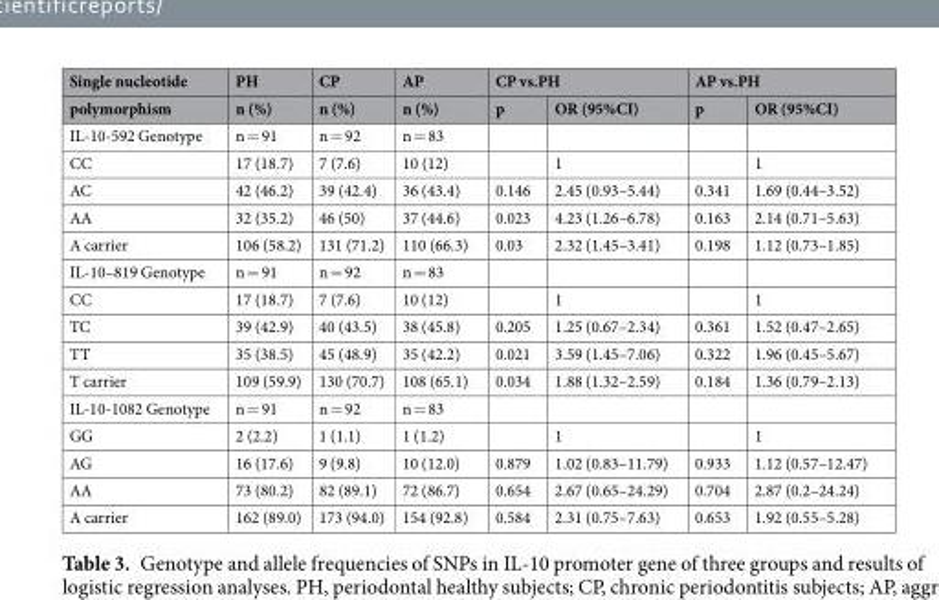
<table><thead><tr><td rowspan="2">Single nucleotide polymorphism</td><td rowspan="2">PH n (%)</td><td rowspan="2">CP n (%)</td><td rowspan="2">AP n (%)</td><td colspan="2">CP vs.PH</td><td colspan="2">AP vs.PH</td></tr><tr><td>p</td><td>OR (95%CI)</td><td>p</td><td>OR (95%CI)</td></tr></thead><tbody><tr><td>IL-10-592 Genotype</td><td>n = 91</td><td>n = 92</td><td>n = 83</td><td></td><td></td><td></td><td></td></tr><tr><td>CC</td><td>17 (18.7)</td><td>7 (7.6)</td><td>10 (12)</td><td></td><td>1</td><td></td><td>1</td></tr><tr><td>AC</td><td>42 (46.2)</td><td>39 (42.4)</td><td>36 (43.4)</td><td>0.146</td><td>2.45 (0.93–5.44)</td><td>0.341</td><td>1.69 (0.44–3.52)</td></tr><tr><td>AA</td><td>32 (35.2)</td><td>46 (50)</td><td>37 (44.6)</td><td>0.023</td><td>4.23 (1.26–6.78)</td><td>0.163</td><td>2.14 (0.71–5.63)</td></tr><tr><td>A carrier</td><td>106 (58.2)</td><td>131 (71.2)</td><td>110 (66.3)</td><td>0.03</td><td>2.32 (1.45–3.41)</td><td>0.198</td><td>1.12 (0.73–1.85)</td></tr><tr><td>IL-10–819 Genotype</td><td>n = 91</td><td>n = 92</td><td>n = 83</td><td></td><td></td><td></td><td></td></tr><tr><td>CC</td><td>17 (18.7)</td><td>7 (7.6)</td><td>10 (12)</td><td></td><td>1</td><td></td><td>1</td></tr><tr><td>TC</td><td>39 (42.9)</td><td>40 (43.5)</td><td>38 (45.8)</td><td>0.205</td><td>1.25 (0.67–2.34)</td><td>0.361</td><td>1.52 (0.47–2.65)</td></tr><tr><td>TT</td><td>35 (38.5)</td><td>45 (48.9)</td><td>35 (42.2)</td><td>0.021</td><td>3.59 (1.45–7.06)</td><td>0.322</td><td>1.96 (0.45–5.67)</td></tr><tr><td>T carrier</td><td>109 (59.9)</td><td>130 (70.7)</td><td>108 (65.1)</td><td>0.034</td><td>1.88 (1.32–2.59)</td><td>0.184</td><td>1.36 (0.79–2.13)</td></tr><tr><td>IL-10-1082 Genotype</td><td>n = 91</td><td>n = 92</td><td>n = 83</td><td></td><td></td><td></td><td></td></tr><tr><td>GG</td><td>2 (2.2)</td><td>1 (1.1)</td><td>1 (1.2)</td><td></td><td>1</td><td></td><td>1</td></tr><tr><td>AG</td><td>16 (17.6)</td><td>9 (9.8)</td><td>10 (12.0)</td><td>0.879</td><td>1.02 (0.83–11.79)</td><td>0.933</td><td>1.12 (0.57–12.47)</td></tr><tr><td>AA</td><td>73 (80.2)</td><td>82 (89.1)</td><td>72 (86.7)</td><td>0.654</td><td>2.67 (0.65–24.29)</td><td>0.704</td><td>2.87 (0.2–24.24)</td></tr><tr><td>A carrier</td><td>162 (89.0)</td><td>173 (94.0)</td><td>154 (92.8)</td><td>0.584</td><td>2.31 (0.75–7.63)</td><td>0.653</td><td>1.92 (0.55–5.28)</td></tr></tbody></table>